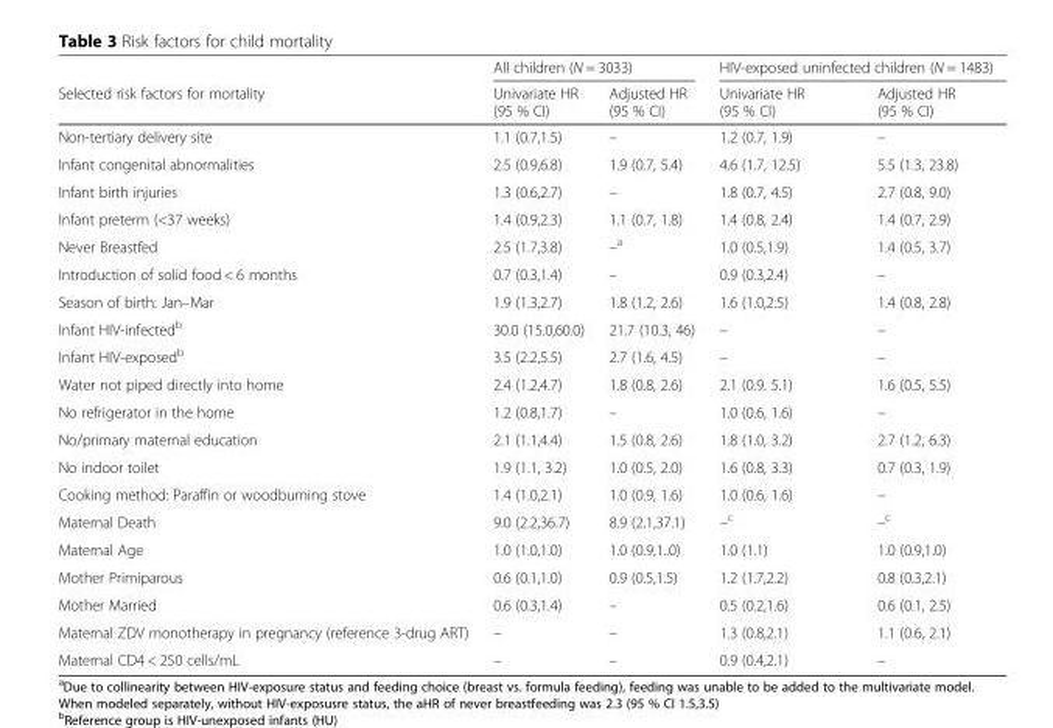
<table><thead><tr><td rowspan="2">Selected risk factors for mortality</td><td colspan="2">All children (N = 3033)</td><td colspan="2">HIV-exposed uninfected children (N = 1483)</td></tr><tr><td>Univariate HR (95 % CI)</td><td>Adjusted HR (95 % CI)</td><td>Univariate HR (95 % CI)</td><td>Adjusted HR (95 % CI)</td></tr></thead><tbody><tr><td>Non-tertiary delivery site</td><td>1.1 (0.7,1.5)</td><td>–</td><td>1.2 (0.7, 1.9)</td><td>–</td></tr><tr><td>Infant congenital abnormalities</td><td>2.5 (0.9,6.8)</td><td>1.9 (0.7, 5.4)</td><td>4.6 (1.7, 12.5)</td><td>5.5 (1.3, 23.8)</td></tr><tr><td>Infant birth injuries</td><td>1.3 (0.6,2.7)</td><td>–</td><td>1.8 (0.7, 4.5)</td><td>2.7 (0.8, 9.0)</td></tr><tr><td>Infant preterm (&lt;37 weeks)</td><td>1.4 (0.9,2.3)</td><td>1.1 (0.7, 1.8)</td><td>1.4 (0.8, 2.4)</td><td>1.4 (0.7, 2.9)</td></tr><tr><td>Never Breastfed</td><td>2.5 (1.7,3.8)</td><td>–<sup>a</sup></td><td>1.0 (0.5,1.9)</td><td>1.4 (0.5, 3.7)</td></tr><tr><td>Introduction of solid food &lt; 6 months</td><td>0.7 (0.3,1.4)</td><td>–</td><td>0.9 (0.3,2.4)</td><td>–</td></tr><tr><td>Season of birth: Jan–Mar</td><td>1.9 (1.3,2.7)</td><td>1.8 (1.2, 2.6)</td><td>1.6 (1.0,2.5)</td><td>1.4 (0.8, 2.8)</td></tr><tr><td>Infant HIV-infected<sup>b</sup></td><td>30.0 (15.0,60.0)</td><td>21.7 (10.3, 46)</td><td>–</td><td>–</td></tr><tr><td>Infant HIV-exposed<sup>b</sup></td><td>3.5 (2.2,5.5)</td><td>2.7 (1.6, 4.5)</td><td>–</td><td>–</td></tr><tr><td>Water not piped directly into home</td><td>2.4 (1.2,4.7)</td><td>1.8 (0.8, 2.6)</td><td>2.1 (0.9. 5.1)</td><td>1.6 (0.5, 5.5)</td></tr><tr><td>No refrigerator in the home</td><td>1.2 (0.8,1.7)</td><td>–</td><td>1.0 (0.6, 1.6)</td><td>–</td></tr><tr><td>No/primary maternal education</td><td>2.1 (1.1,4.4)</td><td>1.5 (0.8, 2.6)</td><td>1.8 (1.0, 3.2)</td><td>2.7 (1.2, 6.3)</td></tr><tr><td>No indoor toilet</td><td>1.9 (1.1, 3.2)</td><td>1.0 (0.5, 2.0)</td><td>1.6 (0.8, 3.3)</td><td>0.7 (0.3, 1.9)</td></tr><tr><td>Cooking method: Paraffin or woodburning stove</td><td>1.4 (1.0,2.1)</td><td>1.0 (0.9, 1.6)</td><td>1.0 (0.6, 1.6)</td><td>–</td></tr><tr><td>Maternal Death</td><td>9.0 (2.2,36.7)</td><td>8.9 (2.1,37.1)</td><td>–<sup>c</sup></td><td>–<sup>c</sup></td></tr><tr><td>Maternal Age</td><td>1.0 (1.0,1.0)</td><td>1.0 (0.9,1..0)</td><td>1.0 (1.1)</td><td>1.0 (0.9,1.0)</td></tr><tr><td>Mother Primiparous</td><td>0.6 (0.1,1.0)</td><td>0.9 (0.5,1.5)</td><td>1.2 (1.7,2.2)</td><td>0.8 (0.3,2.1)</td></tr><tr><td>Mother Married</td><td>0.6 (0.3,1.4)</td><td>–</td><td>0.5 (0.2,1.6)</td><td>0.6 (0.1, 2.5)</td></tr><tr><td>Maternal ZDV monotherapy in pregnancy (reference 3-drug ART)</td><td>–</td><td>–</td><td>1.3 (0.8,2.1)</td><td>1.1 (0.6, 2.1)</td></tr><tr><td>Maternal CD4 &lt; 250 cells/mL</td><td>–</td><td>–</td><td>0.9 (0.4,2.1)</td><td>–</td></tr></tbody></table>